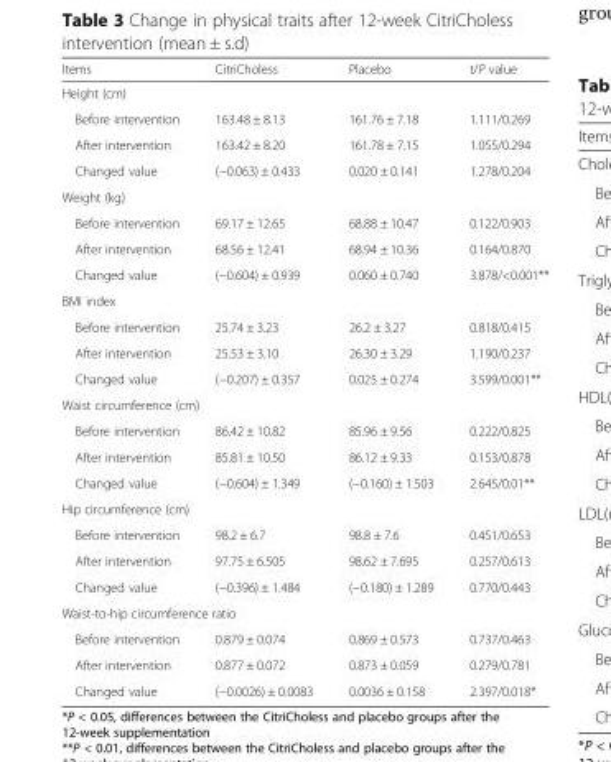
<table><thead><tr><td>Items</td><td>CitriCholess</td><td>Placebo</td><td>t/P value</td></tr></thead><tbody><tr><td colspan="4">Height (cm)</td></tr><tr><td>Before intervention</td><td>163.48 ± 8.13</td><td>161.76 ± 7.18</td><td>1.111/0.269</td></tr><tr><td>After intervention</td><td>163.42 ± 8.20</td><td>161.78 ± 7.15</td><td>1.055/0.294</td></tr><tr><td>Changed value</td><td>(−0.063) ± 0.433</td><td>0.020 ± 0.141</td><td>1.278/0.204</td></tr><tr><td colspan="4">Weight (kg)</td></tr><tr><td>Before intervention</td><td>69.17 ± 12.65</td><td>68.88 ± 10.47</td><td>0.122/0.903</td></tr><tr><td>After intervention</td><td>68.56 ± 12.41</td><td>68.94 ± 10.36</td><td>0.164/0.870</td></tr><tr><td>Changed value</td><td>(−0.604) ± 0.939</td><td>0.060 ± 0.740</td><td>3.878/&lt;0.001**</td></tr><tr><td colspan="4">BMI index</td></tr><tr><td>Before intervention</td><td>25.74 ± 3.23</td><td>26.2 ± 3.27</td><td>0.818/0.415</td></tr><tr><td>After intervention</td><td>25.53 ± 3.10</td><td>26.30 ± 3.29</td><td>1.190/0.237</td></tr><tr><td>Changed value</td><td>(−0.207) ± 0.357</td><td>0.025 ± 0.274</td><td>3.599/0.001**</td></tr><tr><td colspan="4">Waist circumference (cm)</td></tr><tr><td>Before intervention</td><td>86.42 ± 10.82</td><td>85.96 ± 9.56</td><td>0.222/0.825</td></tr><tr><td>After intervention</td><td>85.81 ± 10.50</td><td>86.12 ± 9.33</td><td>0.153/0.878</td></tr><tr><td>Changed value</td><td>(−0.604) ± 1.349</td><td>(−0.160) ± 1.503</td><td>2.645/0.01**</td></tr><tr><td colspan="4">Hip circumference (cm)</td></tr><tr><td>Before intervention</td><td>98.2 ± 6.7</td><td>98.8 ± 7.6</td><td>0.451/0.653</td></tr><tr><td>After intervention</td><td>97.75 ± 6.505</td><td>98.62 ± 7.695</td><td>0.257/0.613</td></tr><tr><td>Changed value</td><td>(−0.396) ± 1.484</td><td>(−0.180) ± 1.289</td><td>0.770/0.443</td></tr><tr><td colspan="4">Waist-to-hip circumference ratio</td></tr><tr><td>Before intervention</td><td>0.879 ± 0.074</td><td>0.869 ± 0.573</td><td>0.737/0.463</td></tr><tr><td>After intervention</td><td>0.877 ± 0.072</td><td>0.873 ± 0.059</td><td>0.279/0.781</td></tr><tr><td>Changed value</td><td>(−0.0026) ± 0.0083</td><td>0.0036 ± 0.158</td><td>2.397/0.018*</td></tr></tbody></table>